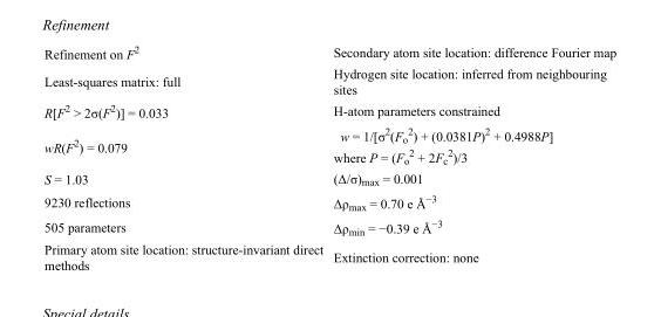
<table><tbody><tr><td>Refinement on F<sup>2</sup></td><td>Secondary atom site location: difference Fourier map</td></tr><tr><td>Least-squares matrix: full</td><td>Hydrogen site location: inferred from neighbouring sites</td></tr><tr><td>R[F<sup>2</sup> &gt; 2σ(F<sup>2</sup>)] = 0.033</td><td>H-atom parameters constrained</td></tr><tr><td>wR(F<sup>2</sup>) = 0.079</td><td>w = 1/[σ<sup>2</sup>(F<sub>o</sub> <sup>2</sup>) + (0.0381P)<sup>2</sup> + 0.4988P] where P = (F<sub>o</sub> <sup>2</sup> + 2F<sub>c</sub> <sup>2</sup>)/3</td></tr><tr><td>S = 1.03</td><td>(Δ/σ)<sub>max</sub> = 0.001</td></tr><tr><td>9230 reflections</td><td>Δρ<sub>max</sub> = 0.70 e Å<sup>−3</sup></td></tr><tr><td>505 parameters</td><td>Δρ<sub>min</sub> = −0.39 e Å<sup>−3</sup></td></tr><tr><td>Primary atom site location: structure-invariant direct methods</td><td>Extinction correction: none</td></tr></tbody></table>